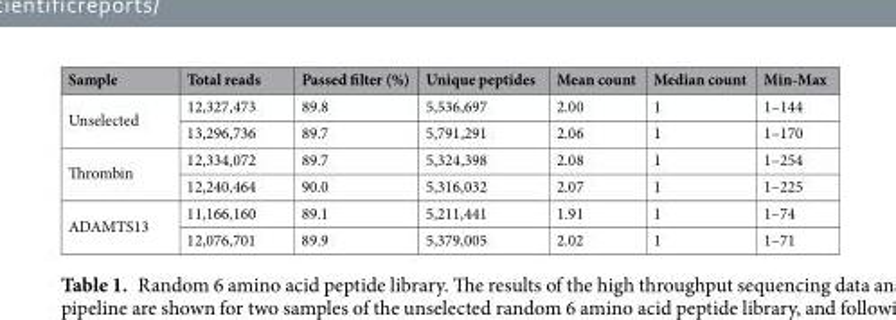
<table><thead><tr><td>Sample</td><td>Total reads</td><td>Passed filter (%)</td><td>Unique peptides</td><td>Mean count</td><td>Median count</td><td>Min-Max</td></tr></thead><tbody><tr><td rowspan="2">Unselected</td><td>12,327,473</td><td>89.8</td><td>5,536,697</td><td>2.00</td><td>1</td><td>1–144</td></tr><tr><td>13,296,736</td><td>89.7</td><td>5,791,291</td><td>2.06</td><td>1</td><td>1–170</td></tr><tr><td rowspan="2">Thrombin</td><td>12,334,072</td><td>89.7</td><td>5,324,398</td><td>2.08</td><td>1</td><td>1–254</td></tr><tr><td>12,240,464</td><td>90.0</td><td>5,316,032</td><td>2.07</td><td>1</td><td>1–225</td></tr><tr><td rowspan="2">ADAMTS13</td><td>11,166,160</td><td>89.1</td><td>5,211,441</td><td>1.91</td><td>1</td><td>1–74</td></tr><tr><td>12,076,701</td><td>89.9</td><td>5,379,005</td><td>2.02</td><td>1</td><td>1–71</td></tr></tbody></table>